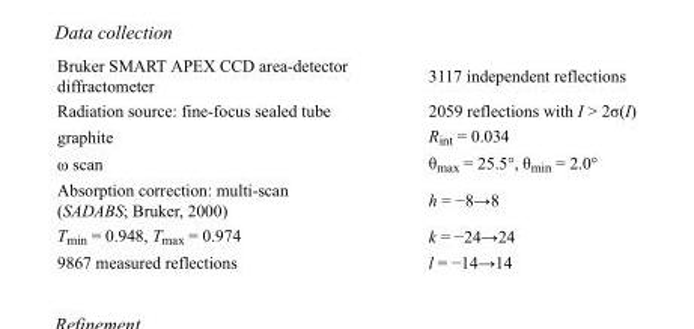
<table><tbody><tr><td>Bruker SMART APEX CCD area-detector diffractometer</td><td>3117 independent reflections</td></tr><tr><td>Radiation source: fine-focus sealed tube</td><td>2059 reflections with I &gt; 2σ(I)</td></tr><tr><td>graphite</td><td>R<sub>int</sub> = 0.034</td></tr><tr><td>ω scan</td><td>θ<sub>max</sub> = 25.5°, θ<sub>min</sub> = 2.0°</td></tr><tr><td>Absorption correction: multi-scan (SADABS; Bruker, 2000)</td><td>h = −8→8</td></tr><tr><td>T<sub>min</sub> = 0.948, T<sub>max</sub> = 0.974</td><td>k = −24→24</td></tr><tr><td>9867 measured reflections</td><td>l = −14→14</td></tr></tbody></table>